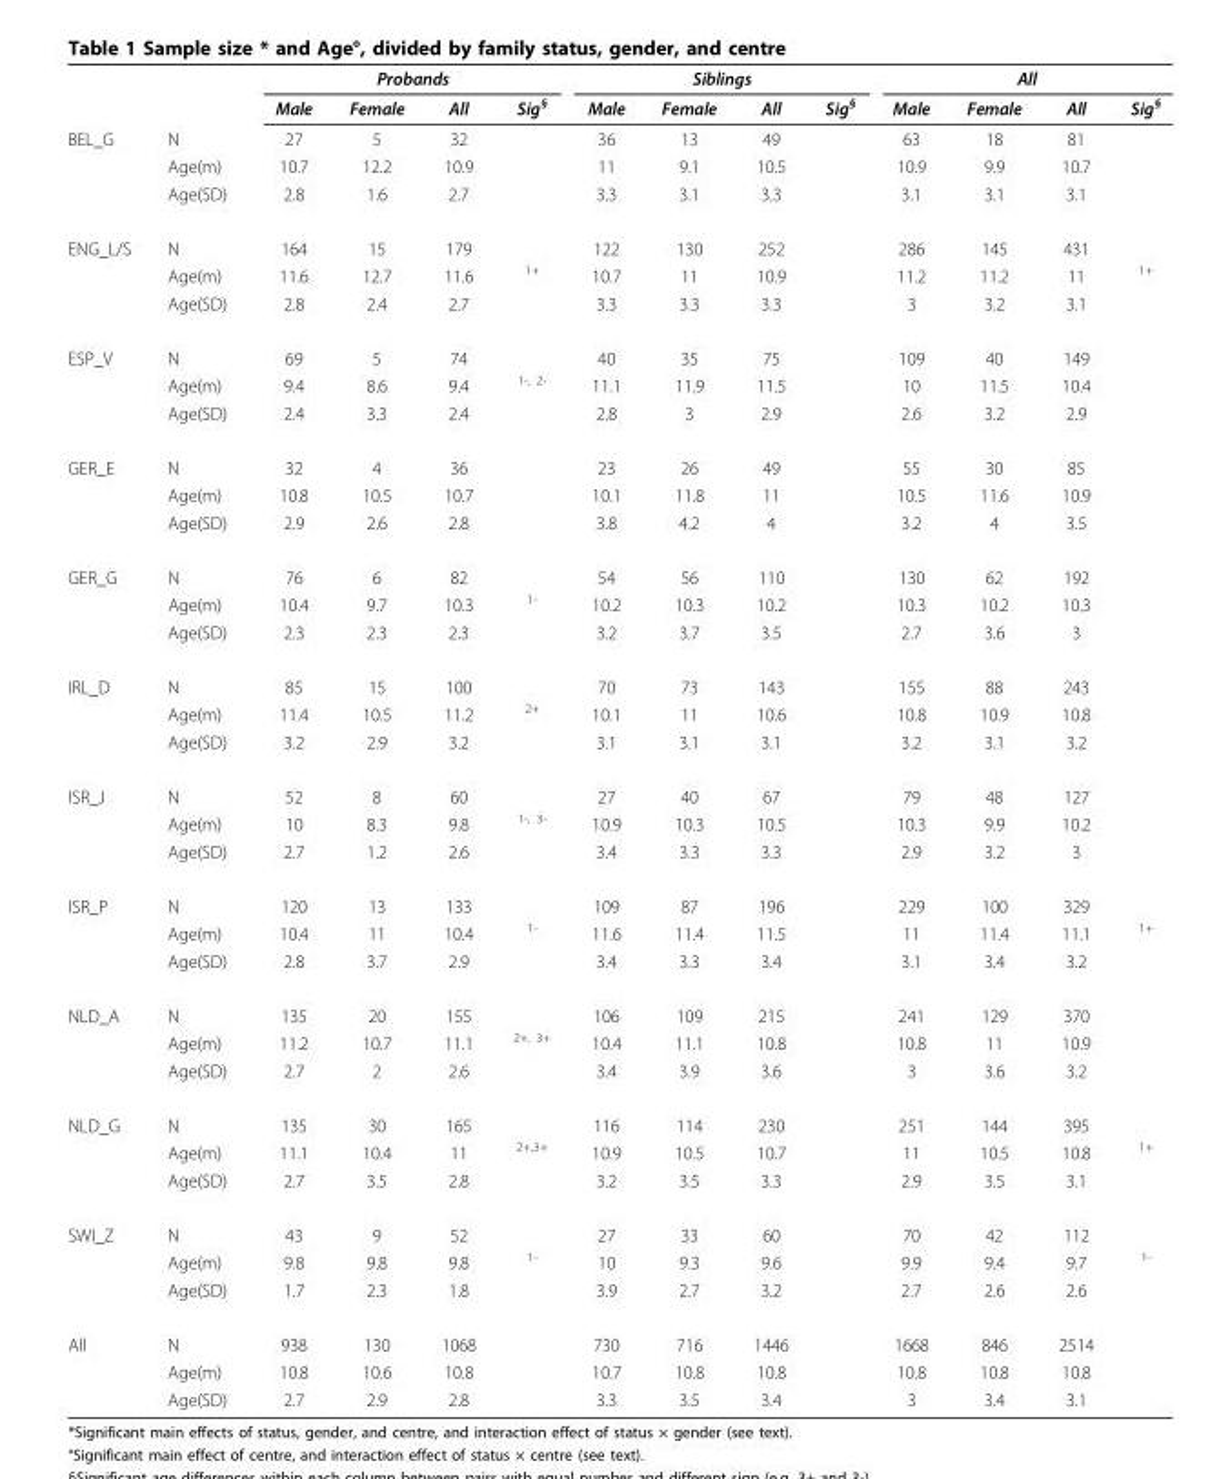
<table><thead><tr><td rowspan="2"></td><td rowspan="2"></td><td colspan="4">Probands</td><td colspan="4">Siblings</td><td colspan="4">All</td></tr><tr><td>Male</td><td>Female</td><td>All</td><td>Sig<sup>§</sup></td><td>Male</td><td>Female</td><td>All</td><td>Sig<sup>§</sup></td><td>Male</td><td>Female</td><td>All</td><td>Sig<sup>§</sup></td></tr></thead><tbody><tr><td rowspan="3">BEL_G</td><td>N</td><td>27</td><td>5</td><td>32</td><td></td><td>36</td><td>13</td><td>49</td><td></td><td>63</td><td>18</td><td>81</td><td></td></tr><tr><td>Age(m)</td><td>10.7</td><td>12.2</td><td>10.9</td><td></td><td>11</td><td>9.1</td><td>10.5</td><td></td><td>10.9</td><td>9.9</td><td>10.7</td><td></td></tr><tr><td>Age(SD)</td><td>2.8</td><td>1.6</td><td>2.7</td><td></td><td>3.3</td><td>3.1</td><td>3.3</td><td></td><td>3.1</td><td>3.1</td><td>3.1</td><td></td></tr><tr><td rowspan="3">ENG_L/S</td><td>N</td><td>164</td><td>15</td><td>179</td><td></td><td>122</td><td>130</td><td>252</td><td></td><td>286</td><td>145</td><td>431</td><td></td></tr><tr><td>Age(m)</td><td>11.6</td><td>12.7</td><td>11.6</td><td><sup>1+</sup></td><td>10.7</td><td>11</td><td>10.9</td><td></td><td>11.2</td><td>11.2</td><td>11</td><td><sup>1+</sup></td></tr><tr><td>Age(SD)</td><td>2.8</td><td>2.4</td><td>2.7</td><td></td><td>3.3</td><td>3.3</td><td>3.3</td><td></td><td>3</td><td>3.2</td><td>3.1</td><td></td></tr><tr><td rowspan="3">ESP_V</td><td>N</td><td>69</td><td>5</td><td>74</td><td></td><td>40</td><td>35</td><td>75</td><td></td><td>109</td><td>40</td><td>149</td><td></td></tr><tr><td>Age(m)</td><td>9.4</td><td>8.6</td><td>9.4</td><td><sup>1-, 2-</sup></td><td>11.1</td><td>11.9</td><td>11.5</td><td></td><td>10</td><td>11.5</td><td>10.4</td><td></td></tr><tr><td>Age(SD)</td><td>2.4</td><td>3.3</td><td>2.4</td><td></td><td>2.8</td><td>3</td><td>2.9</td><td></td><td>2.6</td><td>3.2</td><td>2.9</td><td></td></tr><tr><td rowspan="3">GER_E</td><td>N</td><td>32</td><td>4</td><td>36</td><td></td><td>23</td><td>26</td><td>49</td><td></td><td>55</td><td>30</td><td>85</td><td></td></tr><tr><td>Age(m)</td><td>10.8</td><td>10.5</td><td>10.7</td><td></td><td>10.1</td><td>11.8</td><td>11</td><td></td><td>10.5</td><td>11.6</td><td>10.9</td><td></td></tr><tr><td>Age(SD)</td><td>2.9</td><td>2.6</td><td>2.8</td><td></td><td>3.8</td><td>4.2</td><td>4</td><td></td><td>3.2</td><td>4</td><td>3.5</td><td></td></tr><tr><td rowspan="3">GER_G</td><td>N</td><td>76</td><td>6</td><td>82</td><td></td><td>54</td><td>56</td><td>110</td><td></td><td>130</td><td>62</td><td>192</td><td></td></tr><tr><td>Age(m)</td><td>10.4</td><td>9.7</td><td>10.3</td><td><sup>1-</sup></td><td>10.2</td><td>10.3</td><td>10.2</td><td></td><td>10.3</td><td>10.2</td><td>10.3</td><td></td></tr><tr><td>Age(SD)</td><td>2.3</td><td>2.3</td><td>2.3</td><td></td><td>3.2</td><td>3.7</td><td>3.5</td><td></td><td>2.7</td><td>3.6</td><td>3</td><td></td></tr><tr><td rowspan="3">IRL_D</td><td>N</td><td>85</td><td>15</td><td>100</td><td></td><td>70</td><td>73</td><td>143</td><td></td><td>155</td><td>88</td><td>243</td><td></td></tr><tr><td>Age(m)</td><td>11.4</td><td>10.5</td><td>11.2</td><td><sup>2+</sup></td><td>10.1</td><td>11</td><td>10.6</td><td></td><td>10.8</td><td>10.9</td><td>10.8</td><td></td></tr><tr><td>Age(SD)</td><td>3.2</td><td>2.9</td><td>3.2</td><td></td><td>3.1</td><td>3.1</td><td>3.1</td><td></td><td>3.2</td><td>3.1</td><td>3.2</td><td></td></tr><tr><td rowspan="3">ISR_J</td><td>N</td><td>52</td><td>8</td><td>60</td><td></td><td>27</td><td>40</td><td>67</td><td></td><td>79</td><td>48</td><td>127</td><td></td></tr><tr><td>Age(m)</td><td>10</td><td>8.3</td><td>9.8</td><td><sup>1-, 3-</sup></td><td>10.9</td><td>10.3</td><td>10.5</td><td></td><td>10.3</td><td>9.9</td><td>10.2</td><td></td></tr><tr><td>Age(SD)</td><td>2.7</td><td>1.2</td><td>2.6</td><td></td><td>3.4</td><td>3.3</td><td>3.3</td><td></td><td>2.9</td><td>3.2</td><td>3</td><td></td></tr><tr><td rowspan="3">ISR_P</td><td>N</td><td>120</td><td>13</td><td>133</td><td></td><td>109</td><td>87</td><td>196</td><td></td><td>229</td><td>100</td><td>329</td><td></td></tr><tr><td>Age(m)</td><td>10.4</td><td>11</td><td>10.4</td><td><sup>1-</sup></td><td>11.6</td><td>11.4</td><td>11.5</td><td></td><td>11</td><td>11.4</td><td>11.1</td><td><sup>1+</sup></td></tr><tr><td>Age(SD)</td><td>2.8</td><td>3.7</td><td>2.9</td><td></td><td>3.4</td><td>3.3</td><td>3.4</td><td></td><td>3.1</td><td>3.4</td><td>3.2</td><td></td></tr><tr><td rowspan="3">NLD_A</td><td>N</td><td>135</td><td>20</td><td>155</td><td></td><td>106</td><td>109</td><td>215</td><td></td><td>241</td><td>129</td><td>370</td><td></td></tr><tr><td>Age(m)</td><td>11.2</td><td>10.7</td><td>11.1</td><td><sup>2+, 3+</sup></td><td>10.4</td><td>11.1</td><td>10.8</td><td></td><td>10.8</td><td>11</td><td>10.9</td><td></td></tr><tr><td>Age(SD)</td><td>2.7</td><td>2</td><td>2.6</td><td></td><td>3.4</td><td>3.9</td><td>3.6</td><td></td><td>3</td><td>3.6</td><td>3.2</td><td></td></tr><tr><td rowspan="3">NLD_G</td><td>N</td><td>135</td><td>30</td><td>165</td><td></td><td>116</td><td>114</td><td>230</td><td></td><td>251</td><td>144</td><td>395</td><td></td></tr><tr><td>Age(m)</td><td>11.1</td><td>10.4</td><td>11</td><td><sup>2+,3+</sup></td><td>10.9</td><td>10.5</td><td>10.7</td><td></td><td>11</td><td>10.5</td><td>10.8</td><td><sup>1+</sup></td></tr><tr><td>Age(SD)</td><td>2.7</td><td>3.5</td><td>2.8</td><td></td><td>3.2</td><td>3.5</td><td>3.3</td><td></td><td>2.9</td><td>3.5</td><td>3.1</td><td></td></tr><tr><td rowspan="3">SWI_Z</td><td>N</td><td>43</td><td>9</td><td>52</td><td></td><td>27</td><td>33</td><td>60</td><td></td><td>70</td><td>42</td><td>112</td><td></td></tr><tr><td>Age(m)</td><td>9.8</td><td>9.8</td><td>9.8</td><td><sup>1-</sup></td><td>10</td><td>9.3</td><td>9.6</td><td></td><td>9.9</td><td>9.4</td><td>9.7</td><td><sup>1-</sup></td></tr><tr><td>Age(SD)</td><td>1.7</td><td>2.3</td><td>1.8</td><td></td><td>3.9</td><td>2.7</td><td>3.2</td><td></td><td>2.7</td><td>2.6</td><td>2.6</td><td></td></tr><tr><td rowspan="3">All</td><td>N</td><td>938</td><td>130</td><td>1068</td><td></td><td>730</td><td>716</td><td>1446</td><td></td><td>1668</td><td>846</td><td>2514</td><td></td></tr><tr><td>Age(m)</td><td>10.8</td><td>10.6</td><td>10.8</td><td></td><td>10.7</td><td>10.8</td><td>10.8</td><td></td><td>10.8</td><td>10.8</td><td>10.8</td><td></td></tr><tr><td>Age(SD)</td><td>2.7</td><td>2.9</td><td>2.8</td><td></td><td>3.3</td><td>3.5</td><td>3.4</td><td></td><td>3</td><td>3.4</td><td>3.1</td><td></td></tr></tbody></table>